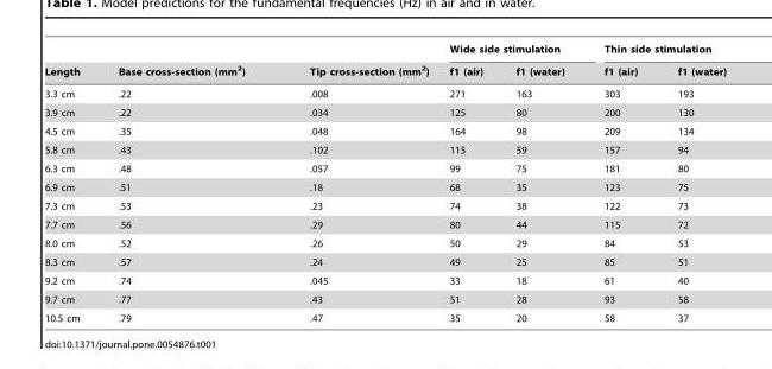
<table><thead><tr><td rowspan="2">Length</td><td rowspan="2">Base cross-section (mm<sup>2</sup>)</td><td rowspan="2">Tip cross-section (mm<sup>2</sup>)</td><td colspan="2">Wide side stimulation</td><td colspan="2">Thin side stimulation</td></tr><tr><td>f1 (air)</td><td>f1 (water)</td><td>f1 (air)</td><td>f1 (water)</td></tr></thead><tbody><tr><td>3.3 cm</td><td>.22</td><td>.008</td><td>271</td><td>163</td><td>303</td><td>193</td></tr><tr><td>3.9 cm</td><td>.22</td><td>.034</td><td>125</td><td>80</td><td>200</td><td>130</td></tr><tr><td>4.5 cm</td><td>.35</td><td>.048</td><td>164</td><td>98</td><td>209</td><td>134</td></tr><tr><td>5.8 cm</td><td>.43</td><td>.102</td><td>115</td><td>59</td><td>157</td><td>94</td></tr><tr><td>6.3 cm</td><td>.48</td><td>.057</td><td>99</td><td>75</td><td>181</td><td>80</td></tr><tr><td>6.9 cm</td><td>.51</td><td>.18</td><td>68</td><td>35</td><td>123</td><td>75</td></tr><tr><td>7.3 cm</td><td>.53</td><td>.23</td><td>74</td><td>38</td><td>122</td><td>73</td></tr><tr><td>7.7 cm</td><td>.56</td><td>.29</td><td>80</td><td>44</td><td>115</td><td>72</td></tr><tr><td>8.0 cm</td><td>.52</td><td>.26</td><td>50</td><td>29</td><td>84</td><td>53</td></tr><tr><td>8.3 cm</td><td>.57</td><td>.24</td><td>49</td><td>25</td><td>85</td><td>51</td></tr><tr><td>9.2 cm</td><td>.74</td><td>.045</td><td>33</td><td>18</td><td>61</td><td>40</td></tr><tr><td>9.7 cm</td><td>.77</td><td>.43</td><td>51</td><td>28</td><td>93</td><td>58</td></tr><tr><td>10.5 cm</td><td>.79</td><td>.47</td><td>35</td><td>20</td><td>58</td><td>37</td></tr></tbody></table>